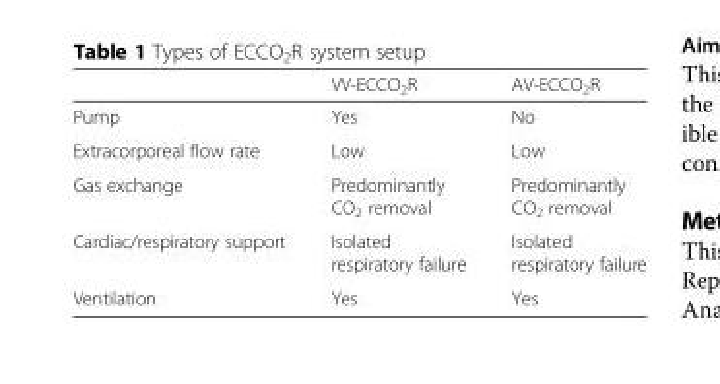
<table><thead><tr><td></td><td>VV-ECCO<sub>2</sub>R</td><td>AV-ECCO<sub>2</sub>R</td></tr></thead><tbody><tr><td>Pump</td><td>Yes</td><td>No</td></tr><tr><td>Extracorporeal flow rate</td><td>Low</td><td>Low</td></tr><tr><td>Gas exchange</td><td>Predominantly CO<sub>2</sub> removal</td><td>Predominantly CO<sub>2</sub> removal</td></tr><tr><td>Cardiac/respiratory support</td><td>Isolated respiratory failure</td><td>Isolated respiratory failure</td></tr><tr><td>Ventilation</td><td>Yes</td><td>Yes</td></tr></tbody></table>